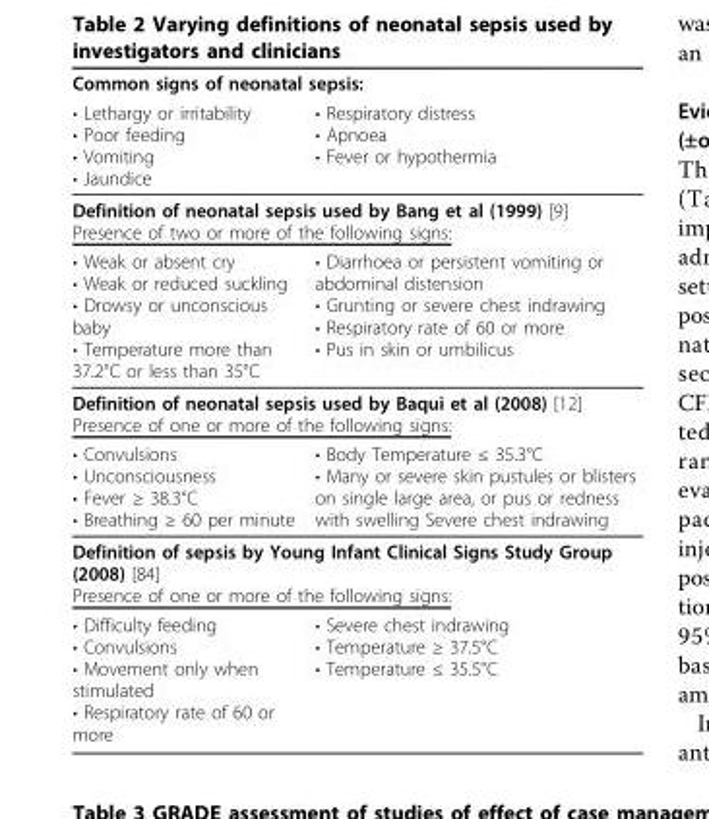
<table><thead><tr><td colspan="2">Common signs of neonatal sepsis:</td></tr><tr><td>• Lethargy or irritability • Poor feeding • Vomiting • Jaundice</td><td>• Respiratory distress • Apnoea • Fever or hypothermia</td></tr></thead><tbody><tr><td colspan="2">Definition of neonatal sepsis used by Bang et al (1999) [9] Presence of two or more of the following signs:</td></tr><tr><td>• Weak or absent cry • Weak or reduced suckling • Drowsy or unconscious baby • Temperature more than 37.2°C or less than 35°C</td><td>• Diarrhoea or persistent vomiting or abdominal distension • Grunting or severe chest indrawing • Respiratory rate of 60 or more • Pus in skin or umbilicus</td></tr><tr><td colspan="2">Definition of neonatal sepsis used by Baqui et al (2008) [12] Presence of one or more of the following signs:</td></tr><tr><td>• Convulsions • Unconsciousness • Fever ≥ 38.3°C • Breathing ≥ 60 per minute</td><td>• Body Temperature ≤ 35.3°C • Many or severe skin pustules or blisters on single large area, or pus or redness with swelling Severe chest indrawing</td></tr><tr><td colspan="2">Definition of sepsis by Young Infant Clinical Signs Study Group (2008) [84] Presence of one or more of the following signs:</td></tr><tr><td>• Difficulty feeding • Convulsions • Movement only when stimulated • Respiratory rate of 60 or more</td><td>• Severe chest indrawing • Temperature ≥ 37.5°C • Temperature ≤ 35.5°C</td></tr></tbody></table>